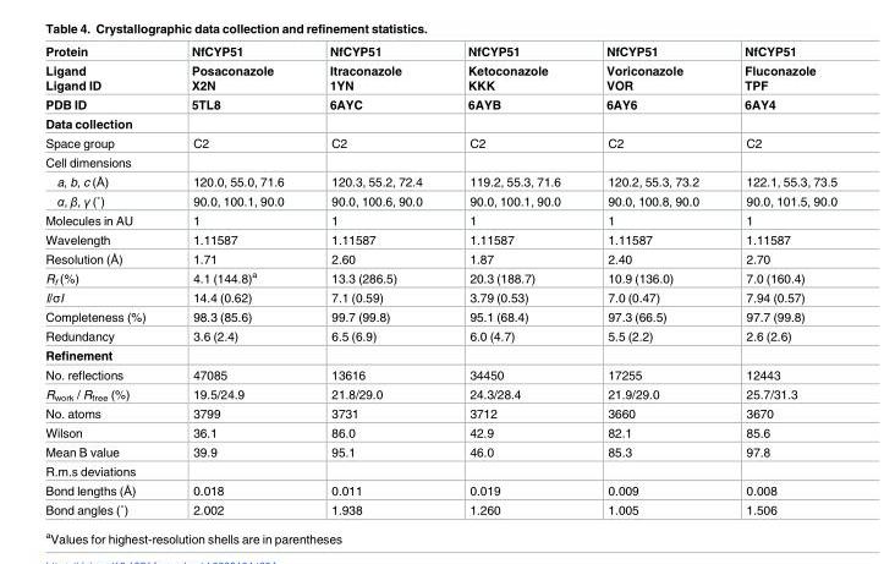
<table><thead><tr><td rowspan="3">Protein Ligand Ligand ID PDB ID</td><td rowspan="3">NfCYP51 Posaconazole X2N 5TL8</td><td rowspan="3">NfCYP51 Itraconazole 1YN 6AYC</td><td rowspan="3">NfCYP51 Ketoconazole KKK 6AYB</td><td rowspan="3">NfCYP51 Voriconazole VOR 6AY6</td><td rowspan="3">NfCYP51 Fluconazole TPF 6AY4</td></tr><tr></tr><tr></tr></thead><tbody><tr><td colspan="6">Data collection</td></tr><tr><td>Space group</td><td>C2</td><td>C2</td><td>C2</td><td>C2</td><td>C2</td></tr><tr><td colspan="6">Cell dimensions</td></tr><tr><td>a, b, c (Å)</td><td>120.0, 55.0, 71.6</td><td>120.3, 55.2, 72.4</td><td>119.2, 55.3, 71.6</td><td>120.2, 55.3, 73.2</td><td>122.1, 55.3, 73.5</td></tr><tr><td>α, β, γ (˚)</td><td>90.0, 100.1, 90.0</td><td>90.0, 100.6, 90.0</td><td>90.0, 100.1, 90.0</td><td>90.0, 100.8, 90.0</td><td>90.0, 101.5, 90.0</td></tr><tr><td>Molecules in AU</td><td>1</td><td>1</td><td>1</td><td>1</td><td>1</td></tr><tr><td>Wavelength</td><td>1.11587</td><td>1.11587</td><td>1.11587</td><td>1.11587</td><td>1.11587</td></tr><tr><td>Resolution (Å)</td><td>1.71</td><td>2.60</td><td>1.87</td><td>2.40</td><td>2.70</td></tr><tr><td>R<sub>f</sub> (%)</td><td>4.1 (144.8)<sup>a</sup></td><td>13.3 (286.5)</td><td>20.3 (188.7)</td><td>10.9 (136.0)</td><td>7.0 (160.4)</td></tr><tr><td>I/σI</td><td>14.4 (0.62)</td><td>7.1 (0.59)</td><td>3.79 (0.53)</td><td>7.0 (0.47)</td><td>7.94 (0.57)</td></tr><tr><td>Completeness (%)</td><td>98.3 (85.6)</td><td>99.7 (99.8)</td><td>95.1 (68.4)</td><td>97.3 (66.5)</td><td>97.7 (99.8)</td></tr><tr><td>Redundancy</td><td>3.6 (2.4)</td><td>6.5 (6.9)</td><td>6.0 (4.7)</td><td>5.5 (2.2)</td><td>2.6 (2.6)</td></tr><tr><td colspan="6">Refinement</td></tr><tr><td>No. reflections</td><td>47085</td><td>13616</td><td>34450</td><td>17255</td><td>12443</td></tr><tr><td>R<sub>work</sub> / R<sub>free</sub> (%)</td><td>19.5/24.9</td><td>21.8/29.0</td><td>24.3/28.4</td><td>21.9/29.0</td><td>25.7/31.3</td></tr><tr><td>No. atoms</td><td>3799</td><td>3731</td><td>3712</td><td>3660</td><td>3670</td></tr><tr><td>Wilson</td><td>36.1</td><td>86.0</td><td>42.9</td><td>82.1</td><td>85.6</td></tr><tr><td>Mean B value</td><td>39.9</td><td>95.1</td><td>46.0</td><td>85.3</td><td>97.8</td></tr><tr><td colspan="6">R.m.s deviations</td></tr><tr><td>Bond lengths (Å)</td><td>0.018</td><td>0.011</td><td>0.019</td><td>0.009</td><td>0.008</td></tr><tr><td>Bond angles (˚)</td><td>2.002</td><td>1.938</td><td>1.260</td><td>1.005</td><td>1.506</td></tr></tbody></table>